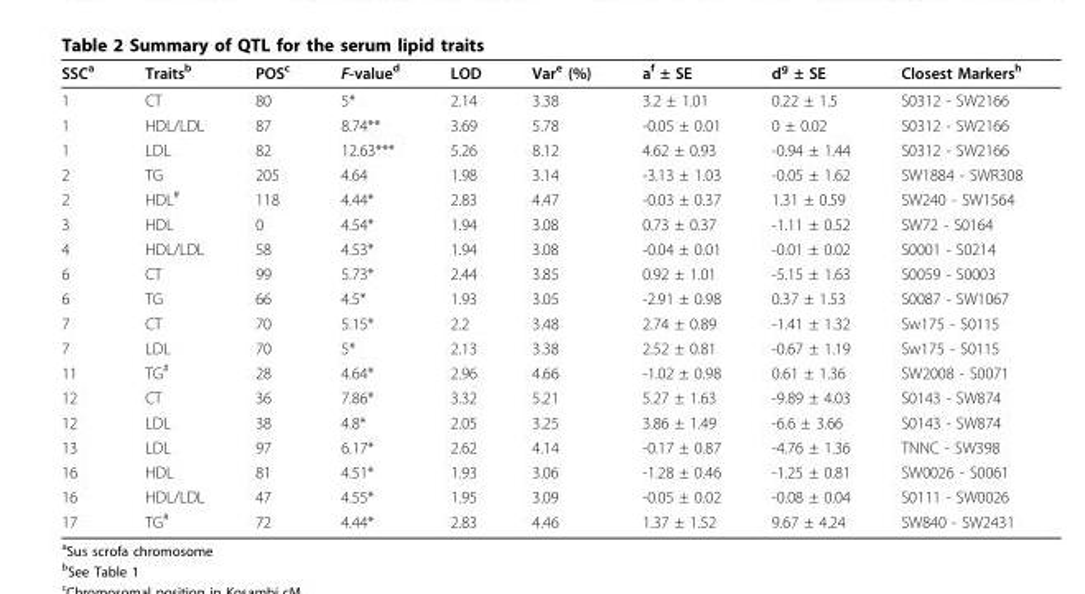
<table><thead><tr><td>SSC<sup>a</sup></td><td>Traits<sup>b</sup></td><td>POS<sup>c</sup></td><td>F-value<sup>d</sup></td><td>LOD</td><td>Var<sup>e</sup> (%)</td><td>a<sup>f</sup> ± SE</td><td>d<sup>g</sup> ± SE</td><td>Closest Markers<sup>h</sup></td></tr></thead><tbody><tr><td>1</td><td>CT</td><td>80</td><td>5*</td><td>2.14</td><td>3.38</td><td>3.2 ± 1.01</td><td>0.22 ± 1.5</td><td>S0312 - SW2166</td></tr><tr><td>1</td><td>HDL/LDL</td><td>87</td><td>8.74**</td><td>3.69</td><td>5.78</td><td>-0.05 ± 0.01</td><td>0 ± 0.02</td><td>S0312 - SW2166</td></tr><tr><td>1</td><td>LDL</td><td>82</td><td>12.63***</td><td>5.26</td><td>8.12</td><td>4.62 ± 0.93</td><td>-0.94 ± 1.44</td><td>S0312 - SW2166</td></tr><tr><td>2</td><td>TG</td><td>205</td><td>4.64</td><td>1.98</td><td>3.14</td><td>-3.13 ± 1.03</td><td>-0.05 ± 1.62</td><td>SW1884 - SWR308</td></tr><tr><td>2</td><td>HDL<sup>#</sup></td><td>118</td><td>4.44*</td><td>2.83</td><td>4.47</td><td>-0.03 ± 0.37</td><td>1.31 ± 0.59</td><td>SW240 - SW1564</td></tr><tr><td>3</td><td>HDL</td><td>0</td><td>4.54*</td><td>1.94</td><td>3.08</td><td>0.73 ± 0.37</td><td>-1.11 ± 0.52</td><td>SW72 - S0164</td></tr><tr><td>4</td><td>HDL/LDL</td><td>58</td><td>4.53*</td><td>1.94</td><td>3.08</td><td>-0.04 ± 0.01</td><td>-0.01 ± 0.02</td><td>S0001 - S0214</td></tr><tr><td>6</td><td>CT</td><td>99</td><td>5.73*</td><td>2.44</td><td>3.85</td><td>0.92 ± 1.01</td><td>-5.15 ± 1.63</td><td>S0059 - S0003</td></tr><tr><td>6</td><td>TG</td><td>66</td><td>4.5*</td><td>1.93</td><td>3.05</td><td>-2.91 ± 0.98</td><td>0.37 ± 1.53</td><td>S0087 - SW1067</td></tr><tr><td>7</td><td>CT</td><td>70</td><td>5.15*</td><td>2.2</td><td>3.48</td><td>2.74 ± 0.89</td><td>-1.41 ± 1.32</td><td>Sw175 - S0115</td></tr><tr><td>7</td><td>LDL</td><td>70</td><td>5*</td><td>2.13</td><td>3.38</td><td>2.52 ± 0.81</td><td>-0.67 ± 1.19</td><td>Sw175 - S0115</td></tr><tr><td>11</td><td>TG<sup>#</sup></td><td>28</td><td>4.64*</td><td>2.96</td><td>4.66</td><td>-1.02 ± 0.98</td><td>0.61 ± 1.36</td><td>SW2008 - S0071</td></tr><tr><td>12</td><td>CT</td><td>36</td><td>7.86*</td><td>3.32</td><td>5.21</td><td>5.27 ± 1.63</td><td>-9.89 ± 4.03</td><td>S0143 - SW874</td></tr><tr><td>12</td><td>LDL</td><td>38</td><td>4.8*</td><td>2.05</td><td>3.25</td><td>3.86 ± 1.49</td><td>-6.6 ± 3.66</td><td>S0143 - SW874</td></tr><tr><td>13</td><td>LDL</td><td>97</td><td>6.17*</td><td>2.62</td><td>4.14</td><td>-0.17 ± 0.87</td><td>-4.76 ± 1.36</td><td>TNNC - SW398</td></tr><tr><td>16</td><td>HDL</td><td>81</td><td>4.51*</td><td>1.93</td><td>3.06</td><td>-1.28 ± 0.46</td><td>-1.25 ± 0.81</td><td>SW0026 - S0061</td></tr><tr><td>16</td><td>HDL/LDL</td><td>47</td><td>4.55*</td><td>1.95</td><td>3.09</td><td>-0.05 ± 0.02</td><td>-0.08 ± 0.04</td><td>S0111 - SW0026</td></tr><tr><td>17</td><td>TG<sup>#</sup></td><td>72</td><td>4.44*</td><td>2.83</td><td>4.46</td><td>1.37 ± 1.52</td><td>9.67 ± 4.24</td><td>SW840 - SW2431</td></tr></tbody></table>